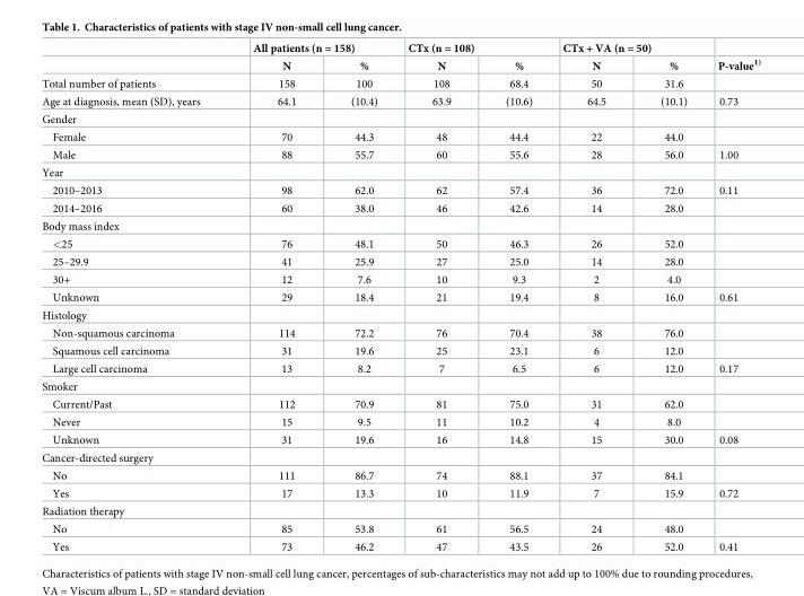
<table><thead><tr><td rowspan="2"></td><td colspan="2">All patients (n = 158)</td><td colspan="2">CTx (n = 108)</td><td colspan="2">CTx + VA (n = 50)</td><td rowspan="2">P-value<sup>1)</sup></td></tr><tr><td>N</td><td>%</td><td>N</td><td>%</td><td>N</td><td>%</td></tr></thead><tbody><tr><td>Total number of patients</td><td>158</td><td>100</td><td>108</td><td>68.4</td><td>50</td><td>31.6</td><td></td></tr><tr><td>Age at diagnosis, mean (SD), years</td><td>64.1</td><td>(10.4)</td><td>63.9</td><td>(10.6)</td><td>64.5</td><td>(10.1)</td><td>0.73</td></tr><tr><td colspan="8">Gender</td></tr><tr><td>Female</td><td>70</td><td>44.3</td><td>48</td><td>44.4</td><td>22</td><td>44.0</td><td></td></tr><tr><td>Male</td><td>88</td><td>55.7</td><td>60</td><td>55.6</td><td>28</td><td>56.0</td><td>1.00</td></tr><tr><td colspan="8">Year</td></tr><tr><td>2010–2013</td><td>98</td><td>62.0</td><td>62</td><td>57.4</td><td>36</td><td>72.0</td><td>0.11</td></tr><tr><td>2014–2016</td><td>60</td><td>38.0</td><td>46</td><td>42.6</td><td>14</td><td>28.0</td><td></td></tr><tr><td colspan="8">Body mass index</td></tr><tr><td>&lt;25</td><td>76</td><td>48.1</td><td>50</td><td>46.3</td><td>26</td><td>52.0</td><td></td></tr><tr><td>25–29.9</td><td>41</td><td>25.9</td><td>27</td><td>25.0</td><td>14</td><td>28.0</td><td></td></tr><tr><td>30+</td><td>12</td><td>7.6</td><td>10</td><td>9.3</td><td>2</td><td>4.0</td><td></td></tr><tr><td>Unknown</td><td>29</td><td>18.4</td><td>21</td><td>19.4</td><td>8</td><td>16.0</td><td>0.61</td></tr><tr><td colspan="8">Histology</td></tr><tr><td>Non-squamous carcinoma</td><td>114</td><td>72.2</td><td>76</td><td>70.4</td><td>38</td><td>76.0</td><td></td></tr><tr><td>Squamous cell carcinoma</td><td>31</td><td>19.6</td><td>25</td><td>23.1</td><td>6</td><td>12.0</td><td></td></tr><tr><td>Large cell carcinoma</td><td>13</td><td>8.2</td><td>7</td><td>6.5</td><td>6</td><td>12.0</td><td>0.17</td></tr><tr><td colspan="8">Smoker</td></tr><tr><td>Current/Past</td><td>112</td><td>70.9</td><td>81</td><td>75.0</td><td>31</td><td>62.0</td><td></td></tr><tr><td>Never</td><td>15</td><td>9.5</td><td>11</td><td>10.2</td><td>4</td><td>8.0</td><td></td></tr><tr><td>Unknown</td><td>31</td><td>19.6</td><td>16</td><td>14.8</td><td>15</td><td>30.0</td><td>0.08</td></tr><tr><td colspan="8">Cancer-directed surgery</td></tr><tr><td>No</td><td>111</td><td>86.7</td><td>74</td><td>88.1</td><td>37</td><td>84.1</td><td></td></tr><tr><td>Yes</td><td>17</td><td>13.3</td><td>10</td><td>11.9</td><td>7</td><td>15.9</td><td>0.72</td></tr><tr><td colspan="8">Radiation therapy</td></tr><tr><td>No</td><td>85</td><td>53.8</td><td>61</td><td>56.5</td><td>24</td><td>48.0</td><td></td></tr><tr><td>Yes</td><td>73</td><td>46.2</td><td>47</td><td>43.5</td><td>26</td><td>52.0</td><td>0.41</td></tr></tbody></table>